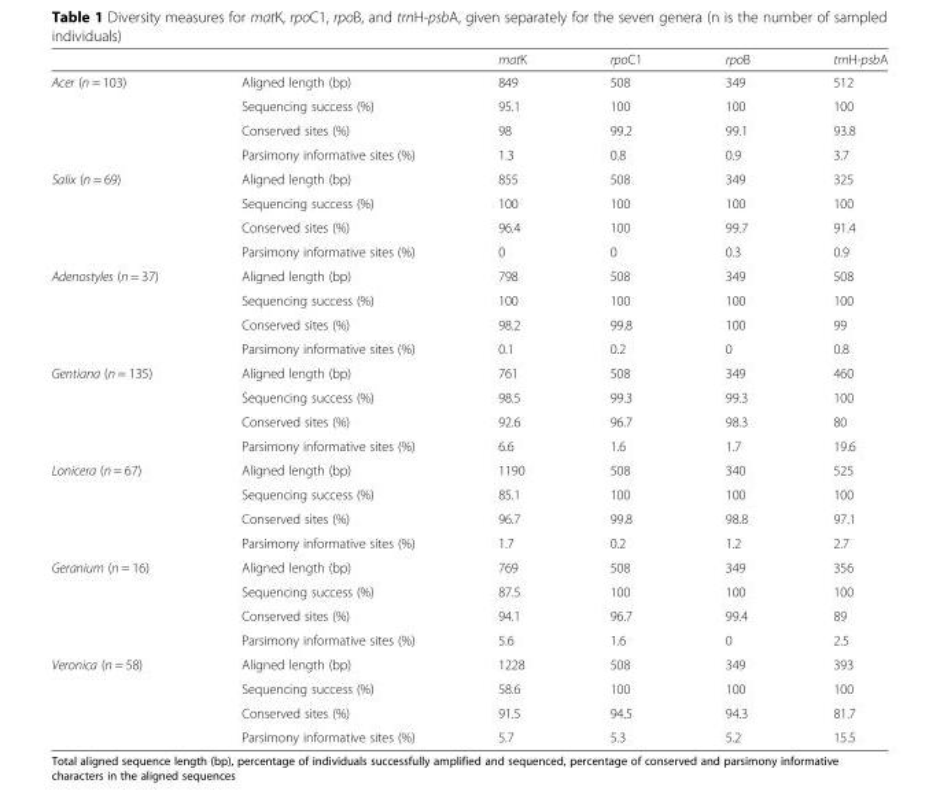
<table><thead><tr><td></td><td></td><td>matK</td><td>rpoC1</td><td>rpoB</td><td>trnH-psbA</td></tr></thead><tbody><tr><td rowspan="4">Acer (n = 103)</td><td>Aligned length (bp)</td><td>849</td><td>508</td><td>349</td><td>512</td></tr><tr><td>Sequencing success (%)</td><td>95.1</td><td>100</td><td>100</td><td>100</td></tr><tr><td>Conserved sites (%)</td><td>98</td><td>99.2</td><td>99.1</td><td>93.8</td></tr><tr><td>Parsimony informative sites (%)</td><td>1.3</td><td>0.8</td><td>0.9</td><td>3.7</td></tr><tr><td rowspan="4">Salix (n = 69)</td><td>Aligned length (bp)</td><td>855</td><td>508</td><td>349</td><td>325</td></tr><tr><td>Sequencing success (%)</td><td>100</td><td>100</td><td>100</td><td>100</td></tr><tr><td>Conserved sites (%)</td><td>96.4</td><td>100</td><td>99.7</td><td>91.4</td></tr><tr><td>Parsimony informative sites (%)</td><td>0</td><td>0</td><td>0.3</td><td>0.9</td></tr><tr><td rowspan="4">Adenostyles (n = 37)</td><td>Aligned length (bp)</td><td>798</td><td>508</td><td>349</td><td>508</td></tr><tr><td>Sequencing success (%)</td><td>100</td><td>100</td><td>100</td><td>100</td></tr><tr><td>Conserved sites (%)</td><td>98.2</td><td>99.8</td><td>100</td><td>99</td></tr><tr><td>Parsimony informative sites (%)</td><td>0.1</td><td>0.2</td><td>0</td><td>0.8</td></tr><tr><td rowspan="4">Gentiana (n = 135)</td><td>Aligned length (bp)</td><td>761</td><td>508</td><td>349</td><td>460</td></tr><tr><td>Sequencing success (%)</td><td>98.5</td><td>99.3</td><td>99.3</td><td>100</td></tr><tr><td>Conserved sites (%)</td><td>92.6</td><td>96.7</td><td>98.3</td><td>80</td></tr><tr><td>Parsimony informative sites (%)</td><td>6.6</td><td>1.6</td><td>1.7</td><td>19.6</td></tr><tr><td rowspan="4">Lonicera (n = 67)</td><td>Aligned length (bp)</td><td>1190</td><td>508</td><td>340</td><td>525</td></tr><tr><td>Sequencing success (%)</td><td>85.1</td><td>100</td><td>100</td><td>100</td></tr><tr><td>Conserved sites (%)</td><td>96.7</td><td>99.8</td><td>98.8</td><td>97.1</td></tr><tr><td>Parsimony informative sites (%)</td><td>1.7</td><td>0.2</td><td>1.2</td><td>2.7</td></tr><tr><td rowspan="4">Geranium (n = 16)</td><td>Aligned length (bp)</td><td>769</td><td>508</td><td>349</td><td>356</td></tr><tr><td>Sequencing success (%)</td><td>87.5</td><td>100</td><td>100</td><td>100</td></tr><tr><td>Conserved sites (%)</td><td>94.1</td><td>96.7</td><td>99.4</td><td>89</td></tr><tr><td>Parsimony informative sites (%)</td><td>5.6</td><td>1.6</td><td>0</td><td>2.5</td></tr><tr><td rowspan="4">Veronica (n = 58)</td><td>Aligned length (bp)</td><td>1228</td><td>508</td><td>349</td><td>393</td></tr><tr><td>Sequencing success (%)</td><td>58.6</td><td>100</td><td>100</td><td>100</td></tr><tr><td>Conserved sites (%)</td><td>91.5</td><td>94.5</td><td>94.3</td><td>81.7</td></tr><tr><td>Parsimony informative sites (%)</td><td>5.7</td><td>5.3</td><td>5.2</td><td>15.5</td></tr></tbody></table>